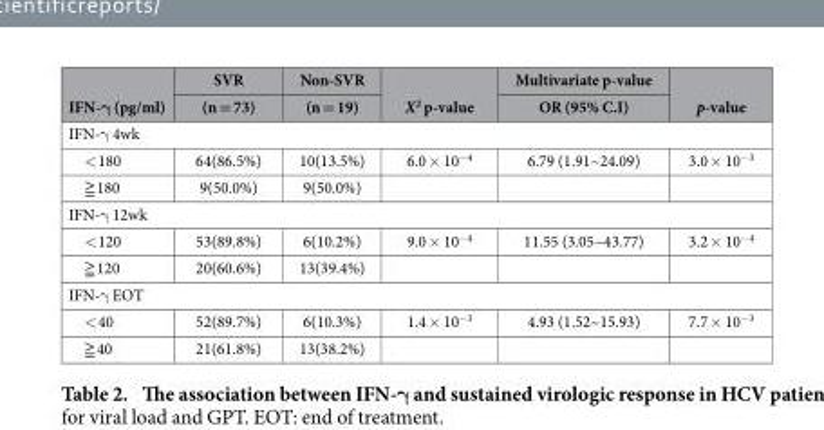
<table><thead><tr><td rowspan="2">IFN-γ (pg/ml)</td><td rowspan="2">SVR (n = 73)</td><td rowspan="2">Non-SVR (n = 19)</td><td rowspan="2">X<sup>2</sup> p-value</td><td rowspan="2">Multivariate p-value OR (95% C.I)</td><td rowspan="2">p-value</td></tr><tr></tr></thead><tbody><tr><td colspan="6">IFN-γ 4wk</td></tr><tr><td>&lt; 180</td><td>64(86.5%)</td><td>10(13.5%)</td><td>6.0 × 10<sup>−4</sup></td><td>6.79 (1.91~24.09)</td><td>3.0 × 10<sup>−3</sup></td></tr><tr><td>≧ 180</td><td>9(50.0%)</td><td>9(50.0%)</td><td></td><td></td><td></td></tr><tr><td colspan="6">IFN-γ 12wk</td></tr><tr><td>&lt; 120</td><td>53(89.8%)</td><td>6(10.2%)</td><td>9.0 × 10<sup>−4</sup></td><td>11.55 (3.05~43.77)</td><td>3.2 × 10<sup>−4</sup></td></tr><tr><td>≧ 120</td><td>20(60.6%)</td><td>13(39.4%)</td><td></td><td></td><td></td></tr><tr><td colspan="6">IFN-γ EOT</td></tr><tr><td>&lt; 40</td><td>52(89.7%)</td><td>6(10.3%)</td><td>1.4 × 10<sup>−3</sup></td><td>4.93 (1.52~15.93)</td><td>7.7 × 10<sup>−3</sup></td></tr><tr><td>≧ 40</td><td>21(61.8%)</td><td>13(38.2%)</td><td></td><td></td><td></td></tr></tbody></table>